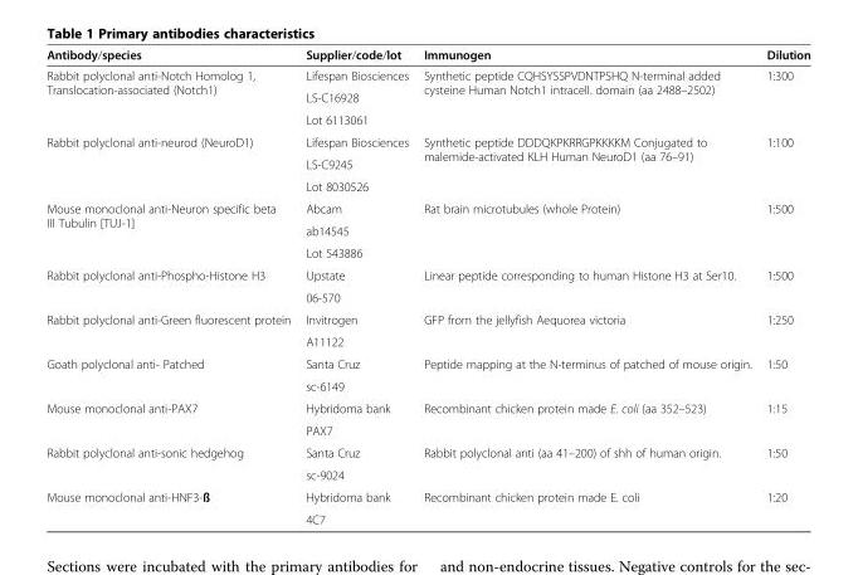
<table><thead><tr><td>Antibody/species</td><td>Supplier/code/lot</td><td>Immunogen</td><td>Dilution</td></tr></thead><tbody><tr><td rowspan="3">Rabbit polyclonal anti-Notch Homolog 1, Translocation-associated (Notch1)</td><td>Lifespan Biosciences</td><td rowspan="3">Synthetic peptide CQHSYSSPVDNTPSHQ N-terminal added cysteine Human Notch1 intracell. domain (aa 2488–2502)</td><td rowspan="3">1:300</td></tr><tr><td>LS-C16928</td></tr><tr><td>Lot 6113061</td></tr><tr><td rowspan="3">Rabbit polyclonal anti-neurod (NeuroD1)</td><td>Lifespan Biosciences</td><td rowspan="3">Synthetic peptide DDDQKPKRRGPKKKKM Conjugated to malemide-activated KLH Human NeuroD1 (aa 76–91)</td><td rowspan="3">1:100</td></tr><tr><td>LS-C9245</td></tr><tr><td>Lot 8030526</td></tr><tr><td rowspan="3">Mouse monoclonal anti-Neuron specific beta III Tubulin [TUJ-1]</td><td>Abcam</td><td rowspan="3">Rat brain microtubules (whole Protein)</td><td rowspan="3">1:500</td></tr><tr><td>ab14545</td></tr><tr><td>Lot 543886</td></tr><tr><td rowspan="2">Rabbit polyclonal anti-Phospho-Histone H3</td><td>Upstate</td><td rowspan="2">Linear peptide corresponding to human Histone H3 at Ser10.</td><td rowspan="2">1:500</td></tr><tr><td>06-570</td></tr><tr><td rowspan="2">Rabbit polyclonal anti-Green fluorescent protein</td><td>Invitrogen</td><td rowspan="2">GFP from the jellyfish Aequorea victoria</td><td rowspan="2">1:250</td></tr><tr><td>A11122</td></tr><tr><td rowspan="2">Goath polyclonal anti- Patched</td><td>Santa Cruz</td><td rowspan="2">Peptide mapping at the N-terminus of patched of mouse origin.</td><td rowspan="2">1:50</td></tr><tr><td>sc-6149</td></tr><tr><td rowspan="2">Mouse monoclonal anti-PAX7</td><td>Hybridoma bank</td><td rowspan="2">Recombinant chicken protein made E. coli (aa 352–523)</td><td rowspan="2">1:15</td></tr><tr><td>PAX7</td></tr><tr><td rowspan="2">Rabbit polyclonal anti-sonic hedgehog</td><td>Santa Cruz</td><td rowspan="2">Rabbit polyclonal anti (aa 41–200) of shh of human origin.</td><td rowspan="2">1:50</td></tr><tr><td>sc-9024</td></tr><tr><td rowspan="2">Mouse monoclonal anti-HNF3-ß</td><td>Hybridoma bank</td><td rowspan="2">Recombinant chicken protein made E. coli</td><td rowspan="2">1:20</td></tr><tr><td>4C7</td></tr></tbody></table>